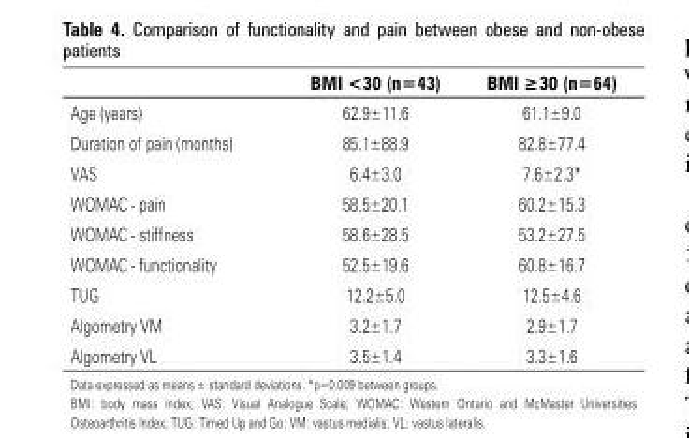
<table><thead><tr><td></td><td>BMI &lt;30 (n=43)</td><td>BMI ≥30 (n=64)</td></tr></thead><tbody><tr><td>Age (years)</td><td>62.9±11.6</td><td>61.1±9.0</td></tr><tr><td>Duration of pain (months)</td><td>85.1±88.9</td><td>82.8±77.4</td></tr><tr><td>VAS</td><td>6.4±3.0</td><td>7.6±2.3*</td></tr><tr><td>WOMAC - pain</td><td>58.5±20.1</td><td>60.2±15.3</td></tr><tr><td>WOMAC - stiffness</td><td>58.6±28.5</td><td>53.2±27.5</td></tr><tr><td>WOMAC - functionality</td><td>52.5±19.6</td><td>60.8±16.7</td></tr><tr><td>TUG</td><td>12.2±5.0</td><td>12.5±4.6</td></tr><tr><td>Algometry VM</td><td>3.2±1.7</td><td>2.9±1.7</td></tr><tr><td>Algometry VL</td><td>3.5±1.4</td><td>3.3±1.6</td></tr></tbody></table>